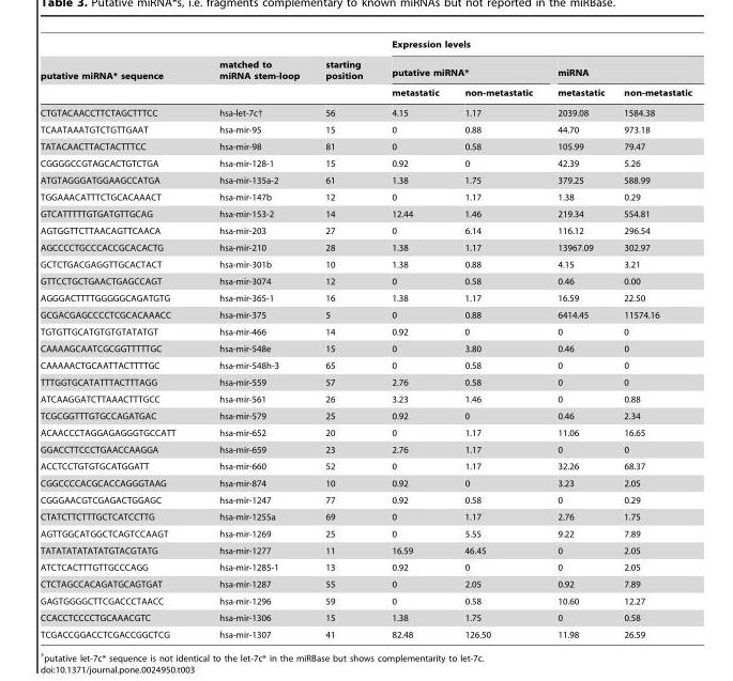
<table><thead><tr><td rowspan="3">putative miRNA* sequence</td><td rowspan="3">matched to miRNA stem-loop</td><td rowspan="3">starting position</td><td colspan="4">Expression levels</td></tr><tr><td colspan="2">putative miRNA*</td><td colspan="2">miRNA</td></tr><tr><td>metastatic</td><td>non-metastatic</td><td>metastatic</td><td>non-metastatic</td></tr></thead><tbody><tr><td>CTGTACAACCTTCTAGCTTTCC</td><td>hsa-let-7c†</td><td>56</td><td>4.15</td><td>1.17</td><td>2039.08</td><td>1584.38</td></tr><tr><td>TCAATAAATGTCTGTTGAAT</td><td>hsa-mir-95</td><td>15</td><td>0</td><td>0.88</td><td>44.70</td><td>973.18</td></tr><tr><td>TATACAACTTACTACTTTCC</td><td>hsa-mir-98</td><td>81</td><td>0</td><td>0.58</td><td>105.99</td><td>79.47</td></tr><tr><td>CGGGGCCGTAGCACTGTCTGA</td><td>hsa-mir-128-1</td><td>15</td><td>0.92</td><td>0</td><td>42.39</td><td>5.26</td></tr><tr><td>ATGTAGGGATGGAAGCCATGA</td><td>hsa-mir-135a-2</td><td>61</td><td>1.38</td><td>1.75</td><td>379.25</td><td>588.99</td></tr><tr><td>TGGAAACATTTCTGCACAAACT</td><td>hsa-mir-147b</td><td>12</td><td>0</td><td>1.17</td><td>1.38</td><td>0.29</td></tr><tr><td>GTCATTTTTGTGATGTTGCAG</td><td>hsa-mir-153-2</td><td>14</td><td>12.44</td><td>1.46</td><td>219.34</td><td>554.81</td></tr><tr><td>AGTGGTTCTTAACAGTTCAACA</td><td>hsa-mir-203</td><td>27</td><td>0</td><td>6.14</td><td>116.12</td><td>296.54</td></tr><tr><td>AGCCCCTGCCCACCGCACACTG</td><td>hsa-mir-210</td><td>28</td><td>1.38</td><td>1.17</td><td>13967.09</td><td>302.97</td></tr><tr><td>GCTCTGACGAGGTTGCACTACT</td><td>hsa-mir-301b</td><td>10</td><td>1.38</td><td>0.88</td><td>4.15</td><td>3.21</td></tr><tr><td>GTTCCTGCTGAACTGAGCCAGT</td><td>hsa-mir-3074</td><td>12</td><td>0</td><td>0.58</td><td>0.46</td><td>0.00</td></tr><tr><td>AGGGACTTTTGGGGGCAGATGTG</td><td>hsa-mir-365-1</td><td>16</td><td>1.38</td><td>1.17</td><td>16.59</td><td>22.50</td></tr><tr><td>GCGACGAGCCCCTCGCACAAACC</td><td>hsa-mir-375</td><td>5</td><td>0</td><td>0.88</td><td>6414.45</td><td>11574.16</td></tr><tr><td>TGTGTTGCATGTGTGTATATGT</td><td>hsa-mir-466</td><td>14</td><td>0.92</td><td>0</td><td>0</td><td>0</td></tr><tr><td>CAAAAGCAATCGCGGTTTTTGC</td><td>hsa-mir-548e</td><td>15</td><td>0</td><td>3.80</td><td>0.46</td><td>0</td></tr><tr><td>CAAAAACTGCAATTACTTTTGC</td><td>hsa-mir-548h-3</td><td>65</td><td>0</td><td>0.58</td><td>0</td><td>0</td></tr><tr><td>TTTGGTGCATATTTACTTTAGG</td><td>hsa-mir-559</td><td>57</td><td>2.76</td><td>0.58</td><td>0</td><td>0</td></tr><tr><td>ATCAAGGATCTTAAACTTTGCC</td><td>hsa-mir-561</td><td>26</td><td>3.23</td><td>1.46</td><td>0</td><td>0.88</td></tr><tr><td>TCGCGGTTTGTGCCAGATGAC</td><td>hsa-mir-579</td><td>25</td><td>0.92</td><td>0</td><td>0.46</td><td>2.34</td></tr><tr><td>ACAACCCTAGGAGAGGGTGCCATT</td><td>hsa-mir-652</td><td>20</td><td>0</td><td>1.17</td><td>11.06</td><td>16.65</td></tr><tr><td>GGACCTTCCCTGAACCAAGGA</td><td>hsa-mir-659</td><td>23</td><td>2.76</td><td>1.17</td><td>0</td><td>0</td></tr><tr><td>ACCTCCTGTGTGCATGGATT</td><td>hsa-mir-660</td><td>52</td><td>0</td><td>1.17</td><td>32.26</td><td>68.37</td></tr><tr><td>CGGCCCCACGCACCAGGGTAAG</td><td>hsa-mir-874</td><td>10</td><td>0.92</td><td>0</td><td>3.23</td><td>2.05</td></tr><tr><td>CGGGAACGTCGAGACTGGAGC</td><td>hsa-mir-1247</td><td>77</td><td>0.92</td><td>0.58</td><td>0</td><td>0.29</td></tr><tr><td>CTATCTTCTTTGCTCATCCTTG</td><td>hsa-mir-1255a</td><td>69</td><td>0</td><td>1.17</td><td>2.76</td><td>1.75</td></tr><tr><td>AGTTGGCATGGCTCAGTCCAAGT</td><td>hsa-mir-1269</td><td>25</td><td>0</td><td>5.55</td><td>9.22</td><td>7.89</td></tr><tr><td>TATATATATATATGTACGTATG</td><td>hsa-mir-1277</td><td>11</td><td>16.59</td><td>46.45</td><td>0</td><td>2.05</td></tr><tr><td>ATCTCACTTTGTTGCCCAGG</td><td>hsa-mir-1285-1</td><td>13</td><td>0.92</td><td>0</td><td>0</td><td>2.05</td></tr><tr><td>CTCTAGCCACAGATGCAGTGAT</td><td>hsa-mir-1287</td><td>55</td><td>0</td><td>2.05</td><td>0.92</td><td>7.89</td></tr><tr><td>GAGTGGGGCTTCGACCCTAACC</td><td>hsa-mir-1296</td><td>59</td><td>0</td><td>0.58</td><td>10.60</td><td>12.27</td></tr><tr><td>CCACCTCCCCTGCAAACGTC</td><td>hsa-mir-1306</td><td>15</td><td>1.38</td><td>1.75</td><td>0</td><td>0.58</td></tr><tr><td>TCGACCGGACCTCGACCGGCTCG</td><td>hsa-mir-1307</td><td>41</td><td>82.48</td><td>126.50</td><td>11.98</td><td>26.59</td></tr></tbody></table>